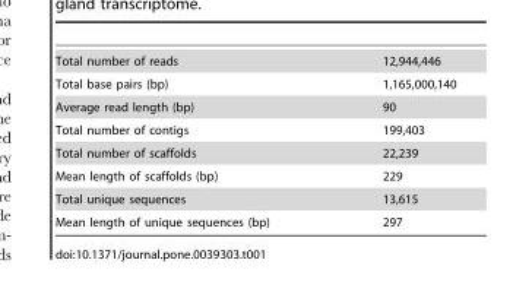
<table><tbody><tr><td>Total number of reads</td><td>12,944,446</td></tr><tr><td>Total base pairs (bp)</td><td>1,165,000,140</td></tr><tr><td>Average read length (bp)</td><td>90</td></tr><tr><td>Total number of contigs</td><td>199,403</td></tr><tr><td>Total number of scaffolds</td><td>22,239</td></tr><tr><td>Mean length of scaffolds (bp)</td><td>229</td></tr><tr><td>Total unique sequences</td><td>13,615</td></tr><tr><td>Mean length of unique sequences (bp)</td><td>297</td></tr></tbody></table>